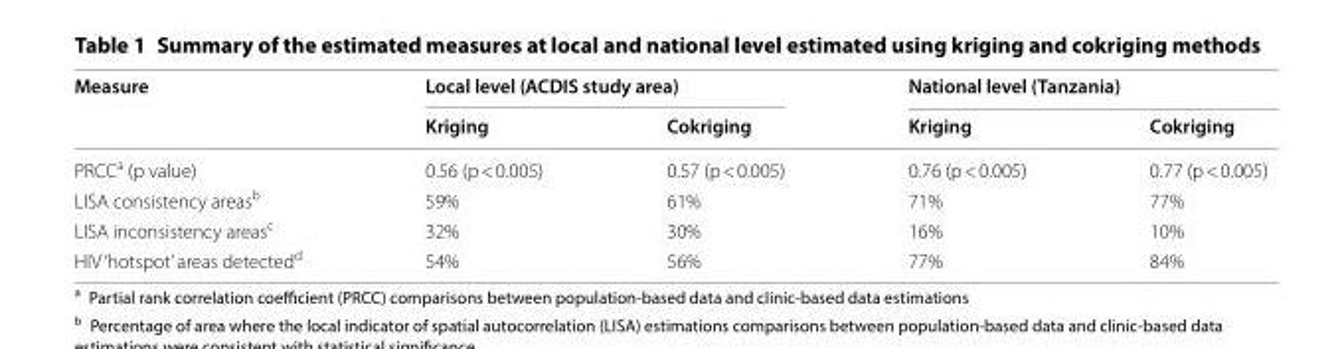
<table><thead><tr><td rowspan="2">Measure</td><td colspan="2">Local level (ACDIS study area)</td><td colspan="2">National level (Tanzania)</td></tr><tr><td>Kriging</td><td>Cokriging</td><td>Kriging</td><td>Cokriging</td></tr></thead><tbody><tr><td>PRCC <sup>a</sup> (p value)</td><td>0.56 (p &lt; 0.005)</td><td>0.57 (p &lt; 0.005)</td><td>0.76 (p &lt; 0.005)</td><td>0.77 (p &lt; 0.005)</td></tr><tr><td>LISA consistency areas<sup>b</sup></td><td>59%</td><td>61%</td><td>71%</td><td>77%</td></tr><tr><td>LISA inconsistency areas<sup>c</sup></td><td>32%</td><td>30%</td><td>16%</td><td>10%</td></tr><tr><td>HIV ‘hotspot’ areas detected<sup>d</sup></td><td>54%</td><td>56%</td><td>77%</td><td>84%</td></tr></tbody></table>